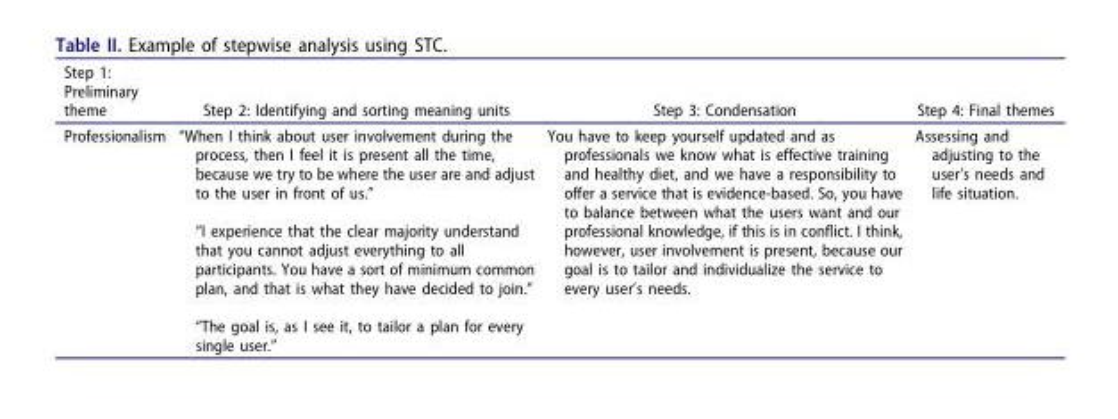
<table><thead><tr><td>Step 1: Preliminary theme</td><td>Step 2: Identifying and sorting meaning units</td><td>Step 3: Condensation</td><td>Step 4: Final themes</td></tr></thead><tbody><tr><td>Professionalism</td><td>“When I think about user involvement during the process, then I feel it is present all the time, because we try to be where the user are and adjust to the user in front of us.” “I experience that the clear majority understand that you cannot adjust everything to all participants. You have a sort of minimum common plan, and that is what they have decided to join.” “The goal is, as I see it, to tailor a plan for every single user.”</td><td>You have to keep yourself updated and as professionals we know what is effective training and healthy diet, and we have a responsibility to offer a service that is evidence-based. So, you have to balance between what the users want and our professional knowledge, if this is in conflict. I think, however, user involvement is present, because our goal is to tailor and individualize the service to every user’s needs.</td><td>Assessing and adjusting to the user’s needs and life situation.</td></tr></tbody></table>